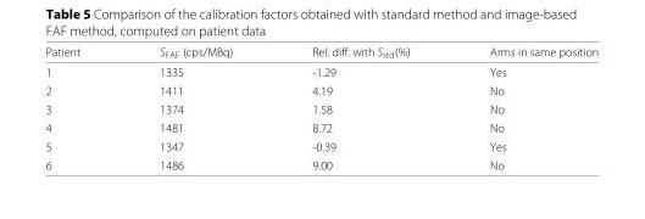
<table><thead><tr><td>Patient</td><td>S<sub>FAF</sub> (cps/MBq)</td><td>Rel. diff. with S<sub>std</sub>(%)</td><td>Arms in same position</td></tr></thead><tbody><tr><td>1</td><td>1335</td><td>-1.29</td><td>Yes</td></tr><tr><td>2</td><td>1411</td><td>4.19</td><td>No</td></tr><tr><td>3</td><td>1374</td><td>1.58</td><td>No</td></tr><tr><td>4</td><td>1481</td><td>8.72</td><td>No</td></tr><tr><td>5</td><td>1347</td><td>-0.39</td><td>Yes</td></tr><tr><td>6</td><td>1486</td><td>9.00</td><td>No</td></tr></tbody></table>